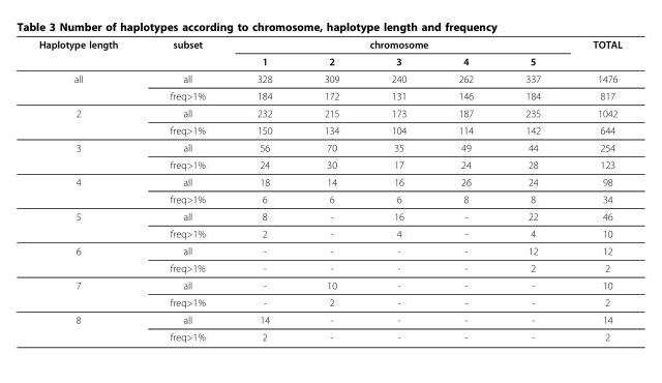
<table><thead><tr><td rowspan="2">Haplotype length</td><td rowspan="2">subset</td><td colspan="5">chromosome</td><td rowspan="2">TOTAL</td></tr><tr><td>1</td><td>2</td><td>3</td><td>4</td><td>5</td></tr></thead><tbody><tr><td rowspan="2">all</td><td>all</td><td>328</td><td>309</td><td>240</td><td>262</td><td>337</td><td>1476</td></tr><tr><td>freq&gt;1%</td><td>184</td><td>172</td><td>131</td><td>146</td><td>184</td><td>817</td></tr><tr><td rowspan="2">2</td><td>all</td><td>232</td><td>215</td><td>173</td><td>187</td><td>235</td><td>1042</td></tr><tr><td>freq&gt;1%</td><td>150</td><td>134</td><td>104</td><td>114</td><td>142</td><td>644</td></tr><tr><td rowspan="2">3</td><td>all</td><td>56</td><td>70</td><td>35</td><td>49</td><td>44</td><td>254</td></tr><tr><td>freq&gt;1%</td><td>24</td><td>30</td><td>17</td><td>24</td><td>28</td><td>123</td></tr><tr><td rowspan="2">4</td><td>all</td><td>18</td><td>14</td><td>16</td><td>26</td><td>24</td><td>98</td></tr><tr><td>freq&gt;1%</td><td>6</td><td>6</td><td>6</td><td>8</td><td>8</td><td>34</td></tr><tr><td rowspan="2">5</td><td>all</td><td>8</td><td>-</td><td>16</td><td>-</td><td>22</td><td>46</td></tr><tr><td>freq&gt;1%</td><td>2</td><td>-</td><td>4</td><td>-</td><td>4</td><td>10</td></tr><tr><td rowspan="2">6</td><td>all</td><td>-</td><td>-</td><td>-</td><td>-</td><td>12</td><td>12</td></tr><tr><td>freq&gt;1%</td><td>-</td><td>-</td><td>-</td><td>-</td><td>2</td><td>2</td></tr><tr><td rowspan="2">7</td><td>all</td><td>-</td><td>10</td><td>-</td><td>-</td><td>-</td><td>10</td></tr><tr><td>freq&gt;1%</td><td>-</td><td>2</td><td>-</td><td>-</td><td>-</td><td>2</td></tr><tr><td rowspan="2">8</td><td>all</td><td>14</td><td>-</td><td>-</td><td>-</td><td>-</td><td>14</td></tr><tr><td>freq&gt;1%</td><td>2</td><td>-</td><td>-</td><td>-</td><td>-</td><td>2</td></tr></tbody></table>